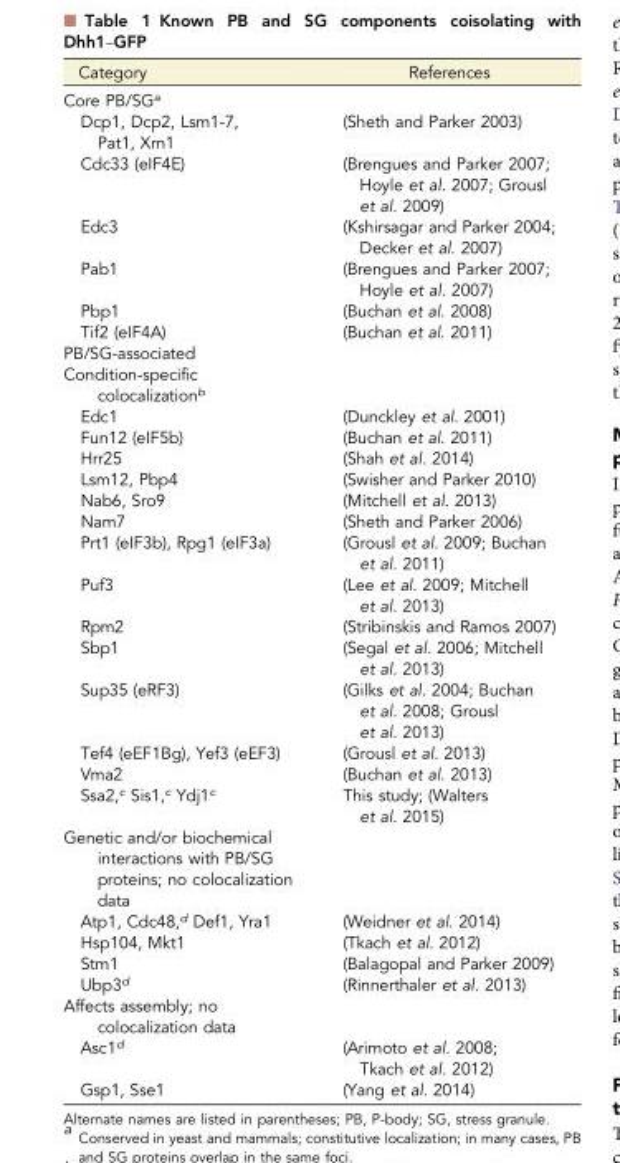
<table><thead><tr><td>Category</td><td>References</td></tr></thead><tbody><tr><td colspan="2">Core PB/SG<sup>a</sup></td></tr><tr><td>Dcp1, Dcp2, Lsm1-7, Pat1, Xrn1</td><td>(Sheth and Parker 2003)</td></tr><tr><td>Cdc33 (eIF4E)</td><td>(Brengues and Parker 2007; Hoyle et al. 2007; Grousl et al. 2009)</td></tr><tr><td>Edc3</td><td>(Kshirsagar and Parker 2004; Decker et al. 2007)</td></tr><tr><td>Pab1</td><td>(Brengues and Parker 2007; Hoyle et al. 2007)</td></tr><tr><td>Pbp1</td><td>(Buchan et al. 2008)</td></tr><tr><td>Tif2 (eIF4A)</td><td>(Buchan et al. 2011)</td></tr><tr><td colspan="2">PB/SG-associated</td></tr><tr><td colspan="2">Condition-specific colocalization<sup>b</sup></td></tr><tr><td>Edc1</td><td>(Dunckley et al. 2001)</td></tr><tr><td>Fun12 (eIF5b)</td><td>(Buchan et al. 2011)</td></tr><tr><td>Hrr25</td><td>(Shah et al. 2014)</td></tr><tr><td>Lsm12, Pbp4</td><td>(Swisher and Parker 2010)</td></tr><tr><td>Nab6, Sro9</td><td>(Mitchell et al. 2013)</td></tr><tr><td>Nam7</td><td>(Sheth and Parker 2006)</td></tr><tr><td>Prt1 (eIF3b), Rpg1 (eIF3a)</td><td>(Grousl et al. 2009; Buchan et al. 2011)</td></tr><tr><td>Puf3</td><td>(Lee et al. 2009; Mitchell et al. 2013)</td></tr><tr><td>Rpm2</td><td>(Stribinskis and Ramos 2007)</td></tr><tr><td>Sbp1</td><td>(Segal et al. 2006; Mitchell et al. 2013)</td></tr><tr><td>Sup35 (eRF3)</td><td>(Gilks et al. 2004; Buchan et al. 2008; Grousl et al. 2013)</td></tr><tr><td>Tef4 (eEF1Bg), Yef3 (eEF3)</td><td>(Grousl et al. 2013)</td></tr><tr><td>Vma2</td><td>(Buchan et al. 2013)</td></tr><tr><td>Ssa2,<sup>c</sup> Sis1,<sup>c</sup> Ydj1<sup>c</sup></td><td>This study; (Walters et al. 2015)</td></tr><tr><td colspan="2">Genetic and/or biochemical interactions with PB/SG proteins; no colocalization data</td></tr><tr><td>Atp1, Cdc48,<sup>d</sup> Def1, Yra1</td><td>(Weidner et al. 2014)</td></tr><tr><td>Hsp104, Mkt1</td><td>(Tkach et al. 2012)</td></tr><tr><td>Stm1</td><td>(Balagopal and Parker 2009)</td></tr><tr><td>Ubp3<sup>d</sup></td><td>(Rinnerthaler et al. 2013)</td></tr><tr><td colspan="2">Affects assembly; no colocalization data</td></tr><tr><td>Asc1<sup>d</sup></td><td>(Arimoto et al. 2008; Tkach et al. 2012)</td></tr><tr><td>Gsp1, Sse1</td><td>(Yang et al. 2014)</td></tr></tbody></table>